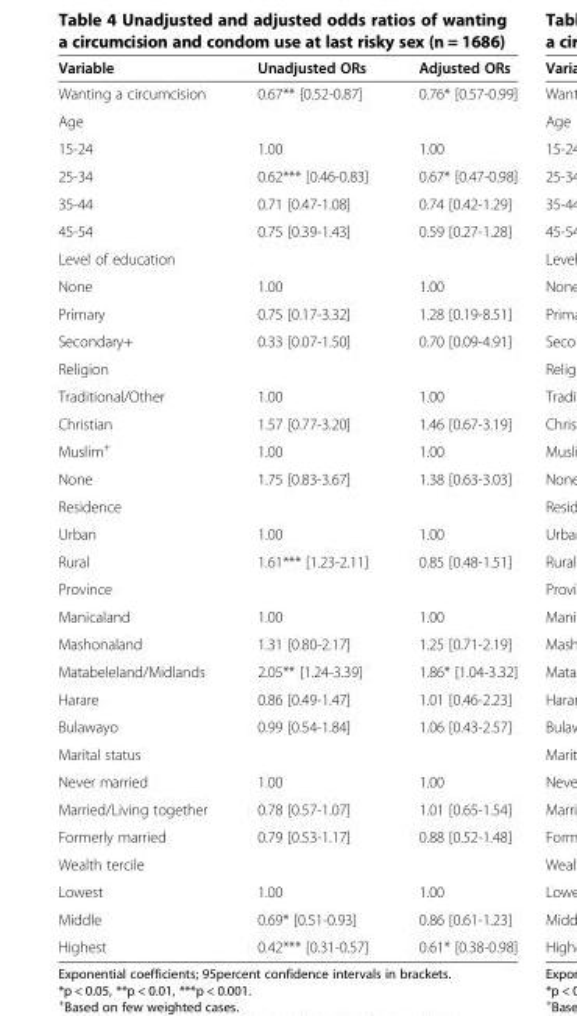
<table><thead><tr><td>Variable</td><td>Unadjusted ORs</td><td>Adjusted ORs</td></tr></thead><tbody><tr><td>Wanting a circumcision</td><td>0.67** [0.52-0.87]</td><td>0.76* [0.57-0.99]</td></tr><tr><td colspan="3">Age</td></tr><tr><td>15-24</td><td>1.00</td><td>1.00</td></tr><tr><td>25-34</td><td>0.62*** [0.46-0.83]</td><td>0.67* [0.47-0.98]</td></tr><tr><td>35-44</td><td>0.71 [0.47-1.08]</td><td>0.74 [0.42-1.29]</td></tr><tr><td>45-54</td><td>0.75 [0.39-1.43]</td><td>0.59 [0.27-1.28]</td></tr><tr><td colspan="3">Level of education</td></tr><tr><td>None</td><td>1.00</td><td>1.00</td></tr><tr><td>Primary</td><td>0.75 [0.17-3.32]</td><td>1.28 [0.19-8.51]</td></tr><tr><td>Secondary+</td><td>0.33 [0.07-1.50]</td><td>0.70 [0.09-4.91]</td></tr><tr><td colspan="3">Religion</td></tr><tr><td>Traditional/Other</td><td>1.00</td><td>1.00</td></tr><tr><td>Christian</td><td>1.57 [0.77-3.20]</td><td>1.46 [0.67-3.19]</td></tr><tr><td>Muslim<sup>+</sup></td><td>1.00</td><td>1.00</td></tr><tr><td>None</td><td>1.75 [0.83-3.67]</td><td>1.38 [0.63-3.03]</td></tr><tr><td colspan="3">Residence</td></tr><tr><td>Urban</td><td>1.00</td><td>1.00</td></tr><tr><td>Rural</td><td>1.61*** [1.23-2.11]</td><td>0.85 [0.48-1.51]</td></tr><tr><td colspan="3">Province</td></tr><tr><td>Manicaland</td><td>1.00</td><td>1.00</td></tr><tr><td>Mashonaland</td><td>1.31 [0.80-2.17]</td><td>1.25 [0.71-2.19]</td></tr><tr><td>Matabeleland/Midlands</td><td>2.05** [1.24-3.39]</td><td>1.86* [1.04-3.32]</td></tr><tr><td>Harare</td><td>0.86 [0.49-1.47]</td><td>1.01 [0.46-2.23]</td></tr><tr><td>Bulawayo</td><td>0.99 [0.54-1.84]</td><td>1.06 [0.43-2.57]</td></tr><tr><td colspan="3">Marital status</td></tr><tr><td>Never married</td><td>1.00</td><td>1.00</td></tr><tr><td>Married/Living together</td><td>0.78 [0.57-1.07]</td><td>1.01 [0.65-1.54]</td></tr><tr><td>Formerly married</td><td>0.79 [0.53-1.17]</td><td>0.88 [0.52-1.48]</td></tr><tr><td colspan="3">Wealth tercile</td></tr><tr><td>Lowest</td><td>1.00</td><td>1.00</td></tr><tr><td>Middle</td><td>0.69* [0.51-0.93]</td><td>0.86 [0.61-1.23]</td></tr><tr><td>Highest</td><td>0.42*** [0.31-0.57]</td><td>0.61* [0.38-0.98]</td></tr></tbody></table>